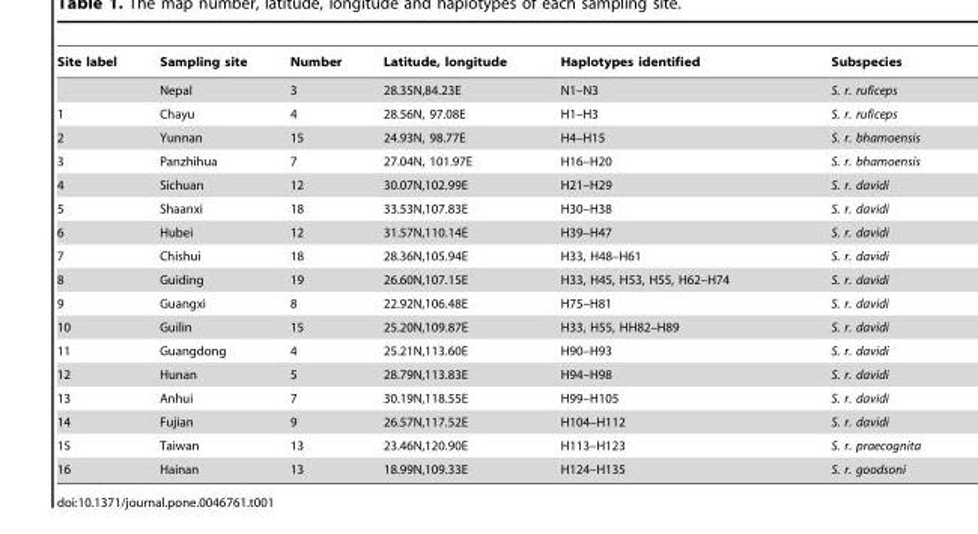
<table><thead><tr><td>Site label</td><td>Sampling site</td><td>Number</td><td>Latitude, longitude</td><td>Haplotypes identified</td><td>Subspecies</td></tr></thead><tbody><tr><td></td><td>Nepal</td><td>3</td><td>28.35N,84.23E</td><td>N1–N3</td><td>S. r. ruficeps</td></tr><tr><td>1</td><td>Chayu</td><td>4</td><td>28.56N, 97.08E</td><td>H1–H3</td><td>S. r. ruficeps</td></tr><tr><td>2</td><td>Yunnan</td><td>15</td><td>24.93N, 98.77E</td><td>H4–H15</td><td>S. r. bhamoensis</td></tr><tr><td>3</td><td>Panzhihua</td><td>7</td><td>27.04N, 101.97E</td><td>H16–H20</td><td>S. r. bhamoensis</td></tr><tr><td>4</td><td>Sichuan</td><td>12</td><td>30.07N,102.99E</td><td>H21–H29</td><td>S. r. davidi</td></tr><tr><td>5</td><td>Shaanxi</td><td>18</td><td>33.53N,107.83E</td><td>H30–H38</td><td>S. r. davidi</td></tr><tr><td>6</td><td>Hubei</td><td>12</td><td>31.57N,110.14E</td><td>H39–H47</td><td>S. r. davidi</td></tr><tr><td>7</td><td>Chishui</td><td>18</td><td>28.36N,105.94E</td><td>H33, H48–H61</td><td>S. r. davidi</td></tr><tr><td>8</td><td>Guiding</td><td>19</td><td>26.60N,107.15E</td><td>H33, H45, H53, H55, H62–H74</td><td>S. r. davidi</td></tr><tr><td>9</td><td>Guangxi</td><td>8</td><td>22.92N,106.48E</td><td>H75–H81</td><td>S. r. davidi</td></tr><tr><td>10</td><td>Guilin</td><td>15</td><td>25.20N,109.87E</td><td>H33, H55, HH82–H89</td><td>S. r. davidi</td></tr><tr><td>11</td><td>Guangdong</td><td>4</td><td>25.21N,113.60E</td><td>H90–H93</td><td>S. r. davidi</td></tr><tr><td>12</td><td>Hunan</td><td>5</td><td>28.79N,113.83E</td><td>H94–H98</td><td>S. r. davidi</td></tr><tr><td>13</td><td>Anhui</td><td>7</td><td>30.19N,118.55E</td><td>H99–H105</td><td>S. r. davidi</td></tr><tr><td>14</td><td>Fujian</td><td>9</td><td>26.57N,117.52E</td><td>H104–H112</td><td>S. r. davidi</td></tr><tr><td>15</td><td>Taiwan</td><td>13</td><td>23.46N,120.90E</td><td>H113–H123</td><td>S. r. praecognita</td></tr><tr><td>16</td><td>Hainan</td><td>13</td><td>18.99N,109.33E</td><td>H124–H135</td><td>S. r. goodsoni</td></tr></tbody></table>